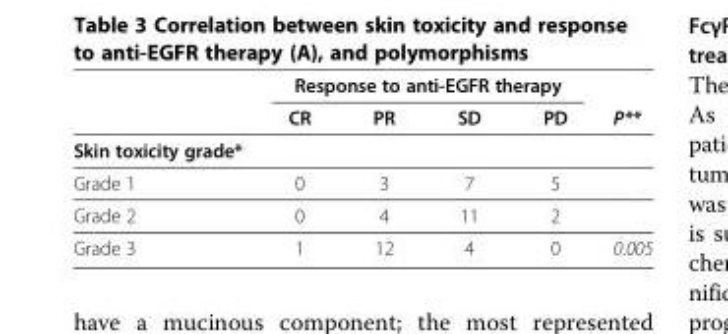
<table><thead><tr><td rowspan="2"></td><td colspan="4">Response to anti-EGFR therapy</td><td rowspan="2">P**</td></tr><tr><td>CR</td><td>PR</td><td>SD</td><td>PD</td></tr></thead><tbody><tr><td colspan="6">Skin toxicity grade*</td></tr><tr><td>Grade 1</td><td>0</td><td>3</td><td>7</td><td>5</td><td></td></tr><tr><td>Grade 2</td><td>0</td><td>4</td><td>11</td><td>2</td><td></td></tr><tr><td>Grade 3</td><td>1</td><td>12</td><td>4</td><td>0</td><td>0.005</td></tr></tbody></table>